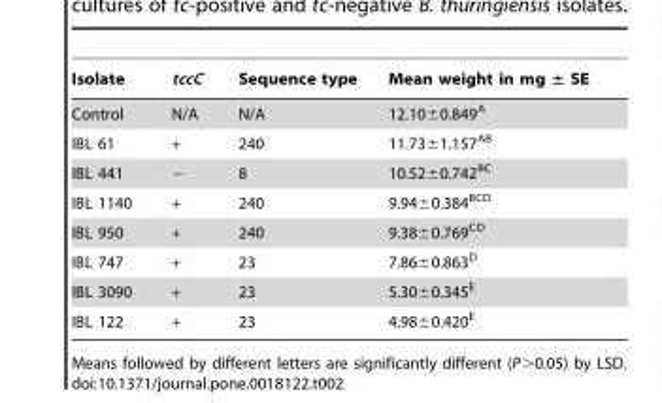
<table><thead><tr><td>Isolate</td><td>tccC</td><td>Sequence type</td><td>Mean weight in mg ± SE</td></tr></thead><tbody><tr><td>Control</td><td>N/A</td><td>N/A</td><td>12.10±0.849<sup>A</sup></td></tr><tr><td>IBL 61</td><td>+</td><td>240</td><td>11.73±1.157<sup>AB</sup></td></tr><tr><td>IBL 441</td><td>−</td><td>8</td><td>10.52±0.742<sup>BC</sup></td></tr><tr><td>IBL 1140</td><td>+</td><td>240</td><td>9.94±0.384<sup>BCD</sup></td></tr><tr><td>IBL 950</td><td>+</td><td>240</td><td>9.38±0.769<sup>CD</sup></td></tr><tr><td>IBL 747</td><td>+</td><td>23</td><td>7.86±0.863<sup>D</sup></td></tr><tr><td>IBL 3090</td><td>+</td><td>23</td><td>5.30±0.345<sup>E</sup></td></tr><tr><td>IBL 122</td><td>+</td><td>23</td><td>4.98±0.420<sup>E</sup></td></tr></tbody></table>